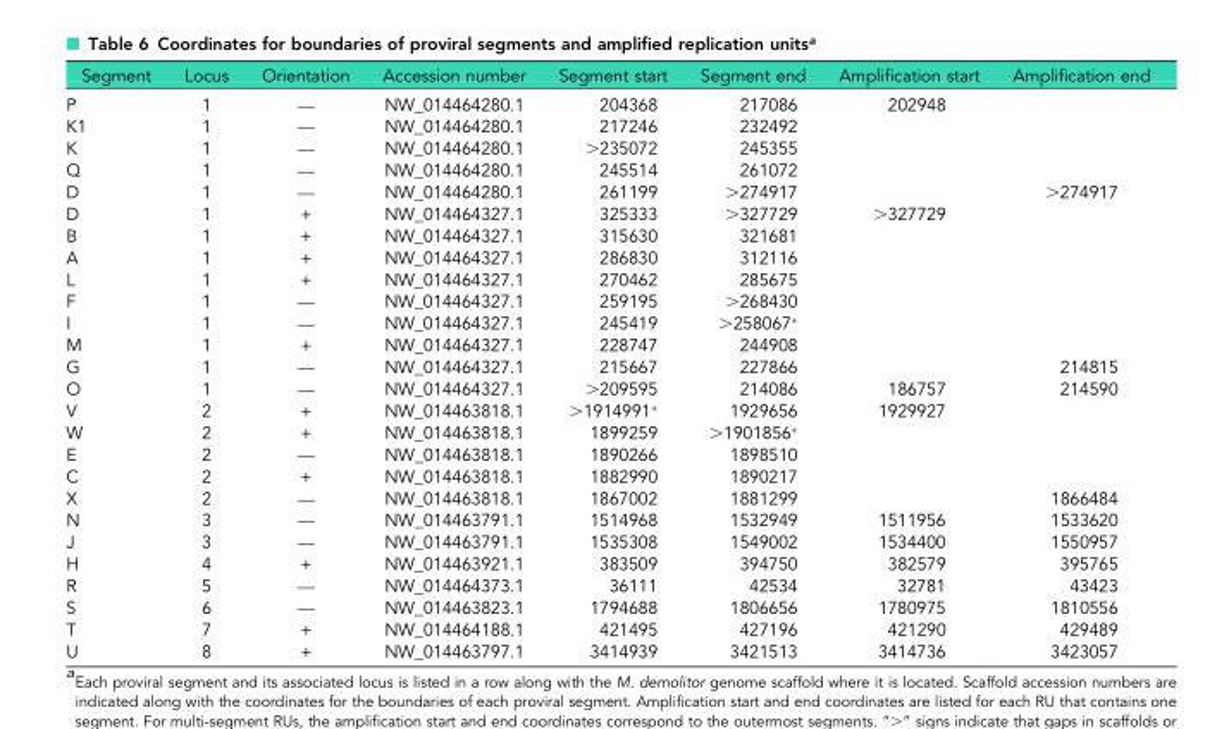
<table><thead><tr><td>Segment</td><td>Locus</td><td>Orientation</td><td>Accession number</td><td>Segment start</td><td>Segment end</td><td>Amplification start</td><td>Amplification end</td></tr></thead><tbody><tr><td>P</td><td>1</td><td>—</td><td>NW_014464280.1</td><td>204368</td><td>217086</td><td>202948</td><td></td></tr><tr><td>K1</td><td>1</td><td>—</td><td>NW_014464280.1</td><td>217246</td><td>232492</td><td></td><td></td></tr><tr><td>K</td><td>1</td><td>—</td><td>NW_014464280.1</td><td>&gt;235072</td><td>245355</td><td></td><td></td></tr><tr><td>Q</td><td>1</td><td>—</td><td>NW_014464280.1</td><td>245514</td><td>261072</td><td></td><td></td></tr><tr><td>D</td><td>1</td><td>—</td><td>NW_014464280.1</td><td>261199</td><td>&gt;274917</td><td></td><td>&gt;274917</td></tr><tr><td>D</td><td>1</td><td>+</td><td>NW_014464327.1</td><td>325333</td><td>&gt;327729</td><td>&gt;327729</td><td></td></tr><tr><td>B</td><td>1</td><td>+</td><td>NW_014464327.1</td><td>315630</td><td>321681</td><td></td><td></td></tr><tr><td>A</td><td>1</td><td>+</td><td>NW_014464327.1</td><td>286830</td><td>312116</td><td></td><td></td></tr><tr><td>L</td><td>1</td><td>+</td><td>NW_014464327.1</td><td>270462</td><td>285675</td><td></td><td></td></tr><tr><td>F</td><td>1</td><td>—</td><td>NW_014464327.1</td><td>259195</td><td>&gt;268430</td><td></td><td></td></tr><tr><td>I</td><td>1</td><td>—</td><td>NW_014464327.1</td><td>245419</td><td>&gt;258067*</td><td></td><td></td></tr><tr><td>M</td><td>1</td><td>+</td><td>NW_014464327.1</td><td>228747</td><td>244908</td><td></td><td></td></tr><tr><td>G</td><td>1</td><td>—</td><td>NW_014464327.1</td><td>215667</td><td>227866</td><td></td><td>214815</td></tr><tr><td>O</td><td>1</td><td>—</td><td>NW_014464327.1</td><td>&gt;209595</td><td>214086</td><td>186757</td><td>214590</td></tr><tr><td>V</td><td>2</td><td>+</td><td>NW_014463818.1</td><td>&gt;1914991*</td><td>1929656</td><td>1929927</td><td></td></tr><tr><td>W</td><td>2</td><td>+</td><td>NW_014463818.1</td><td>1899259</td><td>&gt;1901856*</td><td></td><td></td></tr><tr><td>E</td><td>2</td><td>—</td><td>NW_014463818.1</td><td>1890266</td><td>1898510</td><td></td><td></td></tr><tr><td>C</td><td>2</td><td>+</td><td>NW_014463818.1</td><td>1882990</td><td>1890217</td><td></td><td></td></tr><tr><td>X</td><td>2</td><td>—</td><td>NW_014463818.1</td><td>1867002</td><td>1881299</td><td></td><td>1866484</td></tr><tr><td>N</td><td>3</td><td>—</td><td>NW_014463791.1</td><td>1514968</td><td>1532949</td><td>1511956</td><td>1533620</td></tr><tr><td>J</td><td>3</td><td>—</td><td>NW_014463791.1</td><td>1535308</td><td>1549002</td><td>1534400</td><td>1550957</td></tr><tr><td>H</td><td>4</td><td>+</td><td>NW_014463921.1</td><td>383509</td><td>394750</td><td>382579</td><td>395765</td></tr><tr><td>R</td><td>5</td><td>—</td><td>NW_014464373.1</td><td>36111</td><td>42534</td><td>32781</td><td>43423</td></tr><tr><td>S</td><td>6</td><td>—</td><td>NW_014463823.1</td><td>1794688</td><td>1806656</td><td>1780975</td><td>1810556</td></tr><tr><td>T</td><td>7</td><td>+</td><td>NW_014464188.1</td><td>421495</td><td>427196</td><td>421290</td><td>429489</td></tr><tr><td>U</td><td>8</td><td>+</td><td>NW_014463797.1</td><td>3414939</td><td>3421513</td><td>3414736</td><td>3423057</td></tr></tbody></table>